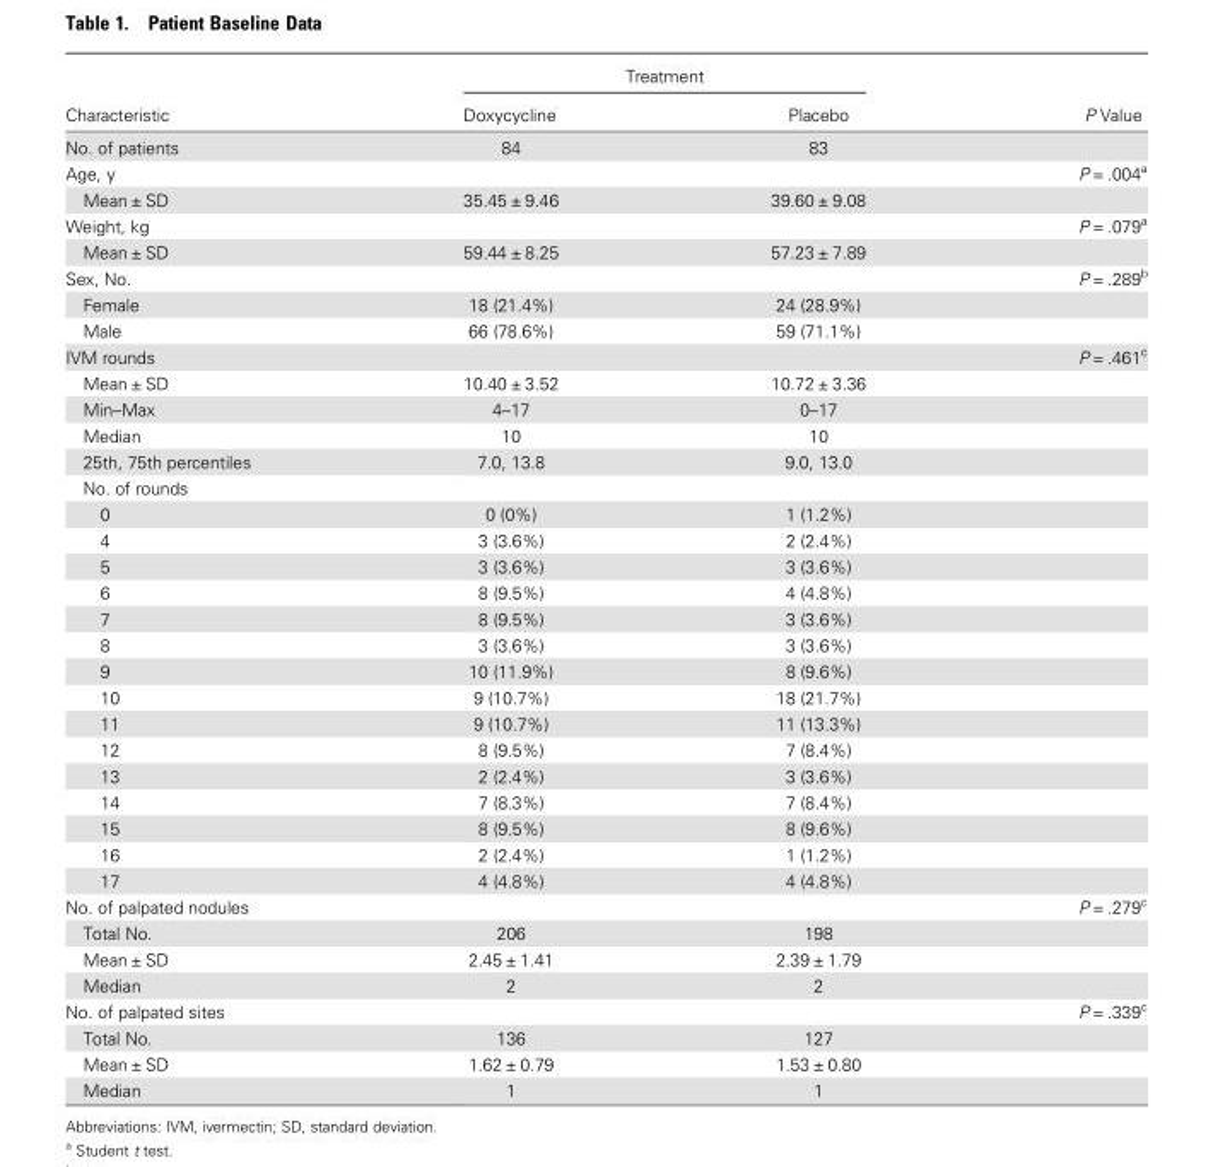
<table><thead><tr><td rowspan="2">Characteristic</td><td colspan="2">Treatment</td><td rowspan="2">P Value</td></tr><tr><td>Doxycycline</td><td>Placebo</td></tr></thead><tbody><tr><td>No. of patients</td><td>84</td><td>83</td><td></td></tr><tr><td colspan="3">Age, y</td><td>P = .004<sup>a</sup></td></tr><tr><td>Mean ± SD</td><td>35.45 ± 9.46</td><td>39.60 ± 9.08</td><td></td></tr><tr><td colspan="3">Weight, kg</td><td>P = .079<sup>a</sup></td></tr><tr><td>Mean ± SD</td><td>59.44 ± 8.25</td><td>57.23 ± 7.89</td><td></td></tr><tr><td colspan="3">Sex, No.</td><td>P = .289<sup>b</sup></td></tr><tr><td>Female</td><td>18 (21.4%)</td><td>24 (28.9%)</td><td></td></tr><tr><td>Male</td><td>66 (78.6%)</td><td>59 (71.1%)</td><td></td></tr><tr><td colspan="3">IVM rounds</td><td>P = .461<sup>c</sup></td></tr><tr><td>Mean ± SD</td><td>10.40 ± 3.52</td><td>10.72 ± 3.36</td><td></td></tr><tr><td>Min–Max</td><td>4–17</td><td>0–17</td><td></td></tr><tr><td>Median</td><td>10</td><td>10</td><td></td></tr><tr><td>25th, 75th percentiles</td><td>7.0, 13.8</td><td>9.0, 13.0</td><td></td></tr><tr><td colspan="4">No. of rounds</td></tr><tr><td>0</td><td>0 (0%)</td><td>1 (1.2%)</td><td></td></tr><tr><td>4</td><td>3 (3.6%)</td><td>2 (2.4%)</td><td></td></tr><tr><td>5</td><td>3 (3.6%)</td><td>3 (3.6%)</td><td></td></tr><tr><td>6</td><td>8 (9.5%)</td><td>4 (4.8%)</td><td></td></tr><tr><td>7</td><td>8 (9.5%)</td><td>3 (3.6%)</td><td></td></tr><tr><td>8</td><td>3 (3.6%)</td><td>3 (3.6%)</td><td></td></tr><tr><td>9</td><td>10 (11.9%)</td><td>8 (9.6%)</td><td></td></tr><tr><td>10</td><td>9 (10.7%)</td><td>18 (21.7%)</td><td></td></tr><tr><td>11</td><td>9 (10.7%)</td><td>11 (13.3%)</td><td></td></tr><tr><td>12</td><td>8 (9.5%)</td><td>7 (8.4%)</td><td></td></tr><tr><td>13</td><td>2 (2.4%)</td><td>3 (3.6%)</td><td></td></tr><tr><td>14</td><td>7 (8.3%)</td><td>7 (8.4%)</td><td></td></tr><tr><td>15</td><td>8 (9.5%)</td><td>8 (9.6%)</td><td></td></tr><tr><td>16</td><td>2 (2.4%)</td><td>1 (1.2%)</td><td></td></tr><tr><td>17</td><td>4 (4.8%)</td><td>4 (4.8%)</td><td></td></tr><tr><td colspan="3">No. of palpated nodules</td><td>P = .279<sup>c</sup></td></tr><tr><td>Total No.</td><td>206</td><td>198</td><td></td></tr><tr><td>Mean ± SD</td><td>2.45 ± 1.41</td><td>2.39 ± 1.79</td><td></td></tr><tr><td>Median</td><td>2</td><td>2</td><td></td></tr><tr><td colspan="3">No. of palpated sites</td><td>P = .339<sup>c</sup></td></tr><tr><td>Total No.</td><td>136</td><td>127</td><td></td></tr><tr><td>Mean ± SD</td><td>1.62 ± 0.79</td><td>1.53 ± 0.80</td><td></td></tr><tr><td>Median</td><td>1</td><td>1</td><td></td></tr></tbody></table>